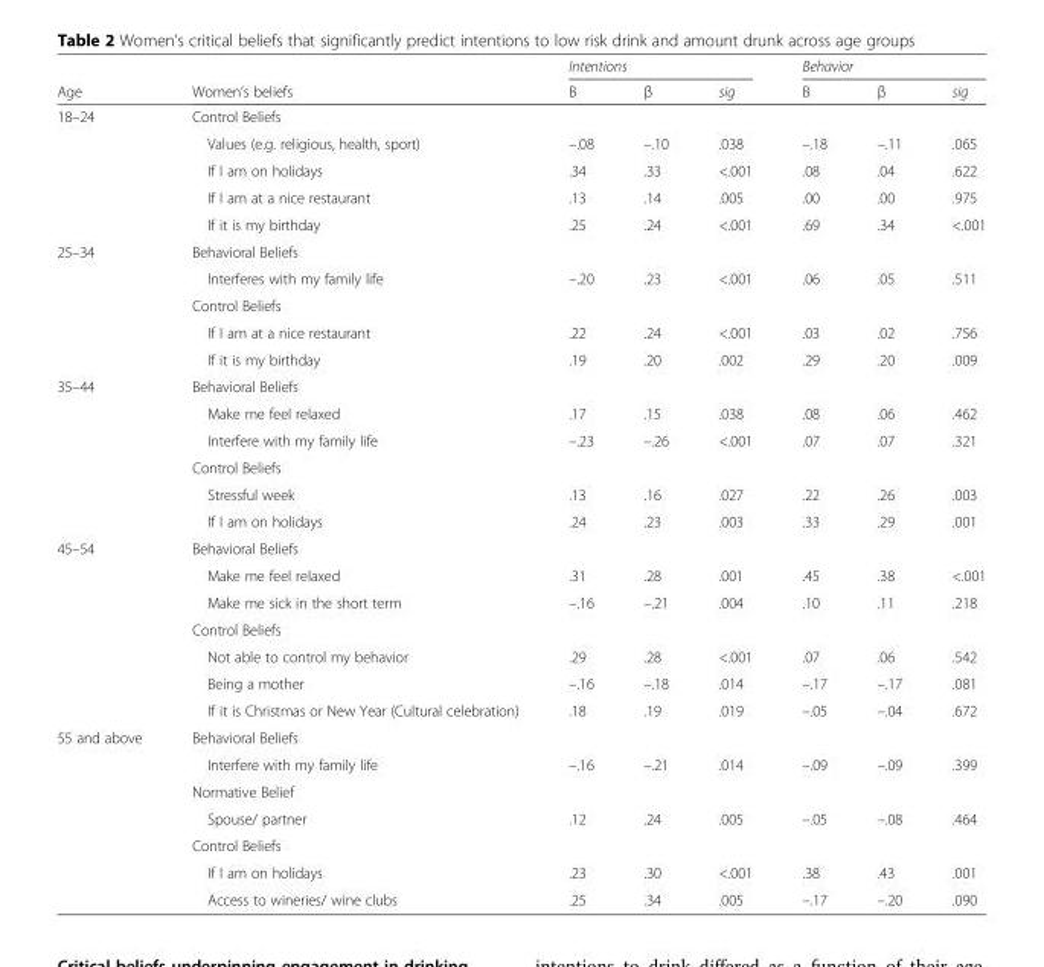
<table><thead><tr><td rowspan="2">Age</td><td rowspan="2">Women’s beliefs</td><td colspan="3">Intentions</td><td colspan="3">Behavior</td></tr><tr><td>B</td><td>β</td><td>sig</td><td>B</td><td>β</td><td>sig</td></tr></thead><tbody><tr><td rowspan="5">18–24</td><td>Control Beliefs</td><td></td><td></td><td></td><td></td><td></td><td></td></tr><tr><td>Values (e.g. religious, health, sport)</td><td>–.08</td><td>–.10</td><td>.038</td><td>–.18</td><td>–.11</td><td>.065</td></tr><tr><td>If I am on holidays</td><td>.34</td><td>.33</td><td>&lt;.001</td><td>.08</td><td>.04</td><td>.622</td></tr><tr><td>If I am at a nice restaurant</td><td>.13</td><td>.14</td><td>.005</td><td>.00</td><td>.00</td><td>.975</td></tr><tr><td>If it is my birthday</td><td>.25</td><td>.24</td><td>&lt;.001</td><td>.69</td><td>.34</td><td>&lt;.001</td></tr><tr><td rowspan="5">25–34</td><td>Behavioral Beliefs</td><td></td><td></td><td></td><td></td><td></td><td></td></tr><tr><td>Interferes with my family life</td><td>–.20</td><td>.23</td><td>&lt;.001</td><td>.06</td><td>.05</td><td>.511</td></tr><tr><td>Control Beliefs</td><td></td><td></td><td></td><td></td><td></td><td></td></tr><tr><td>If I am at a nice restaurant</td><td>.22</td><td>.24</td><td>&lt;.001</td><td>.03</td><td>.02</td><td>.756</td></tr><tr><td>If it is my birthday</td><td>.19</td><td>.20</td><td>.002</td><td>.29</td><td>.20</td><td>.009</td></tr><tr><td rowspan="6">35–44</td><td>Behavioral Beliefs</td><td></td><td></td><td></td><td></td><td></td><td></td></tr><tr><td>Make me feel relaxed</td><td>.17</td><td>.15</td><td>.038</td><td>.08</td><td>.06</td><td>.462</td></tr><tr><td>Interfere with my family life</td><td>–.23</td><td>–.26</td><td>&lt;.001</td><td>.07</td><td>.07</td><td>.321</td></tr><tr><td>Control Beliefs</td><td></td><td></td><td></td><td></td><td></td><td></td></tr><tr><td>Stressful week</td><td>.13</td><td>.16</td><td>.027</td><td>.22</td><td>.26</td><td>.003</td></tr><tr><td>If I am on holidays</td><td>.24</td><td>.23</td><td>.003</td><td>.33</td><td>.29</td><td>.001</td></tr><tr><td rowspan="7">45–54</td><td>Behavioral Beliefs</td><td></td><td></td><td></td><td></td><td></td><td></td></tr><tr><td>Make me feel relaxed</td><td>.31</td><td>.28</td><td>.001</td><td>.45</td><td>.38</td><td>&lt;.001</td></tr><tr><td>Make me sick in the short term</td><td>–.16</td><td>–.21</td><td>.004</td><td>.10</td><td>.11</td><td>.218</td></tr><tr><td>Control Beliefs</td><td></td><td></td><td></td><td></td><td></td><td></td></tr><tr><td>Not able to control my behavior</td><td>.29</td><td>.28</td><td>&lt;.001</td><td>.07</td><td>.06</td><td>.542</td></tr><tr><td>Being a mother</td><td>–.16</td><td>–.18</td><td>.014</td><td>–.17</td><td>–.17</td><td>.081</td></tr><tr><td>If it is Christmas or New Year (Cultural celebration)</td><td>.18</td><td>.19</td><td>.019</td><td>–.05</td><td>–.04</td><td>.672</td></tr><tr><td rowspan="7">55 and above</td><td>Behavioral Beliefs</td><td></td><td></td><td></td><td></td><td></td><td></td></tr><tr><td>Interfere with my family life</td><td>–.16</td><td>–.21</td><td>.014</td><td>–.09</td><td>–.09</td><td>.399</td></tr><tr><td>Normative Belief</td><td></td><td></td><td></td><td></td><td></td><td></td></tr><tr><td>Spouse/ partner</td><td>.12</td><td>.24</td><td>.005</td><td>–.05</td><td>–.08</td><td>.464</td></tr><tr><td>Control Beliefs</td><td></td><td></td><td></td><td></td><td></td><td></td></tr><tr><td>If I am on holidays</td><td>.23</td><td>.30</td><td>&lt;.001</td><td>.38</td><td>.43</td><td>.001</td></tr><tr><td>Access to wineries/ wine clubs</td><td>.25</td><td>.34</td><td>.005</td><td>–.17</td><td>–.20</td><td>.090</td></tr></tbody></table>